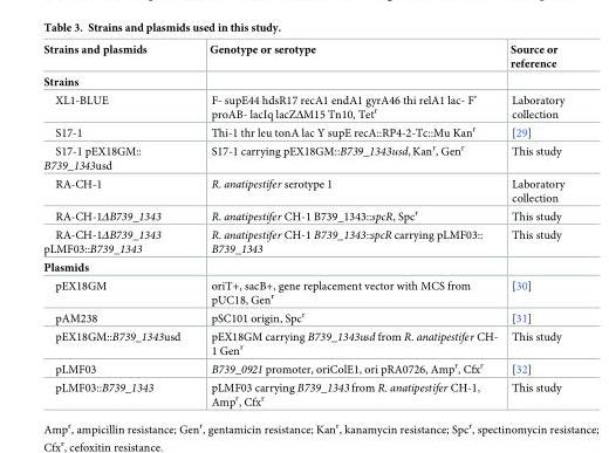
<table><thead><tr><td>Strains and plasmids</td><td>Genotype or serotype</td><td>Source or reference</td></tr></thead><tbody><tr><td colspan="3">Strains</td></tr><tr><td>XL1-BLUE</td><td>F- supE44 hdsR17 recA1 endA1 gyrA46 thi relA1 lac- F’ proAB- lacIq lacZΔM15 Tn10, Tet<sup>r</sup></td><td>Laboratory collection</td></tr><tr><td>S17-1</td><td>Thi-1 thr leu tonA lac Y supE recA::RP4-2-Tc::Mu Kan<sup>r</sup></td><td>[29]</td></tr><tr><td>S17-1 pEX18GM:: B739_1343usd</td><td>S17-1 carrying pEX18GM::B739_1343usd, Kan<sup>r</sup>, Gen<sup>r</sup></td><td>This study</td></tr><tr><td>RA-CH-1</td><td>R. anatipestifer serotype 1</td><td>Laboratory collection</td></tr><tr><td>RA-CH-1ΔB739_1343</td><td>R. anatipestifer CH-1 B739_1343::spcR, Spc<sup>r</sup></td><td>This study</td></tr><tr><td>RA-CH-1ΔB739_1343 pLMF03::B739_1343</td><td>R. anatipestifer CH-1 B739_1343::spcR carrying pLMF03:: B739_1343</td><td>This study</td></tr><tr><td colspan="3">Plasmids</td></tr><tr><td>pEX18GM</td><td>oriT+, sacB+, gene replacement vector with MCS from pUC18, Gen<sup>r</sup></td><td>[30]</td></tr><tr><td>pAM238</td><td>pSC101 origin, Spc<sup>r</sup></td><td>[31]</td></tr><tr><td>pEX18GM::B739_1343usd</td><td>pEX18GM carrying B739_1343usd from R. anatipestifer CH- 1 Gen<sup>r</sup></td><td>This study</td></tr><tr><td>pLMF03</td><td>B739_0921 promoter, oriColE1, ori pRA0726, Amp<sup>r</sup>, Cfx<sup>r</sup></td><td>[32]</td></tr><tr><td>pLMF03::B739_1343</td><td>pLMF03 carrying B739_1343 from R. anatipestifer CH-1, Amp<sup>r</sup>, Cfx<sup>r</sup></td><td>This study</td></tr></tbody></table>